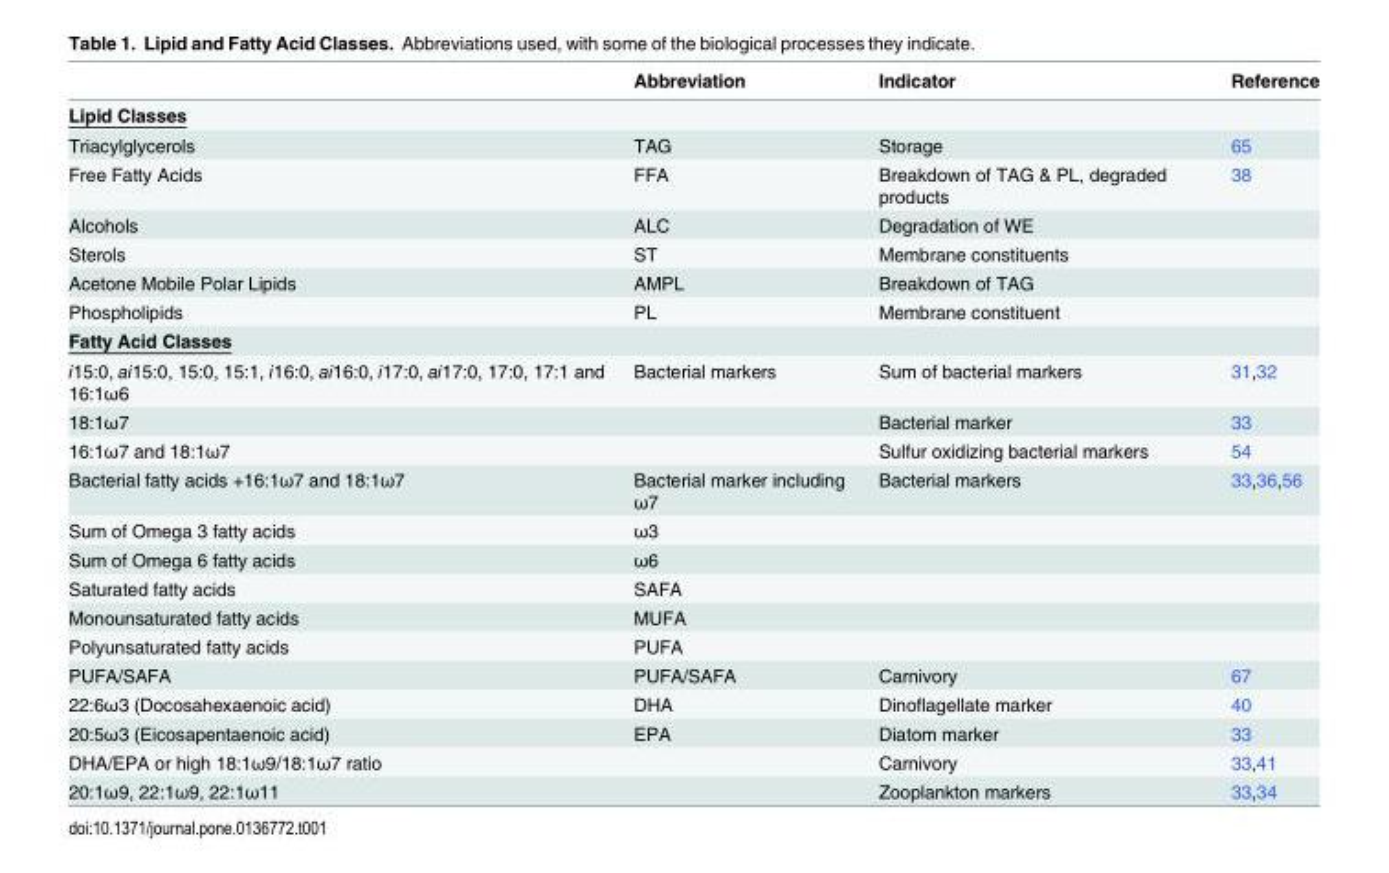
<table><thead><tr><td></td><td>Abbreviation</td><td>Indicator</td><td>Reference</td></tr></thead><tbody><tr><td colspan="4">Lipid Classes</td></tr><tr><td>Triacylglycerols</td><td>TAG</td><td>Storage</td><td>65</td></tr><tr><td>Free Fatty Acids</td><td>FFA</td><td>Breakdown of TAG &amp; PL, degraded products</td><td>38</td></tr><tr><td>Alcohols</td><td>ALC</td><td>Degradation of WE</td><td></td></tr><tr><td>Sterols</td><td>ST</td><td>Membrane constituents</td><td></td></tr><tr><td>Acetone Mobile Polar Lipids</td><td>AMPL</td><td>Breakdown of TAG</td><td></td></tr><tr><td>Phospholipids</td><td>PL</td><td>Membrane constituent</td><td></td></tr><tr><td colspan="4">Fatty Acid Classes</td></tr><tr><td>i15:0, ai15:0, 15:0, 15:1, i16:0, ai16:0, i17:0, ai17:0, 17:0, 17:1 and 16:1ω6</td><td>Bacterial markers</td><td>Sum of bacterial markers</td><td>31,32</td></tr><tr><td>18:1ω7</td><td></td><td>Bacterial marker</td><td>33</td></tr><tr><td>16:1ω7 and 18:1ω7</td><td></td><td>Sulfur oxidizing bacterial markers</td><td>54</td></tr><tr><td>Bacterial fatty acids +16:1ω7 and 18:1ω7</td><td>Bacterial marker including ω7</td><td>Bacterial markers</td><td>33,36,56</td></tr><tr><td>Sum of Omega 3 fatty acids</td><td>ω3</td><td></td><td></td></tr><tr><td>Sum of Omega 6 fatty acids</td><td>ω6</td><td></td><td></td></tr><tr><td>Saturated fatty acids</td><td>SAFA</td><td></td><td></td></tr><tr><td>Monounsaturated fatty acids</td><td>MUFA</td><td></td><td></td></tr><tr><td>Polyunsaturated fatty acids</td><td>PUFA</td><td></td><td></td></tr><tr><td>PUFA/SAFA</td><td>PUFA/SAFA</td><td>Carnivory</td><td>67</td></tr><tr><td>22:6ω3 (Docosahexaenoic acid)</td><td>DHA</td><td>Dinoflagellate marker</td><td>40</td></tr><tr><td>20:5ω3 (Eicosapentaenoic acid)</td><td>EPA</td><td>Diatom marker</td><td>33</td></tr><tr><td>DHA/EPA or high 18:1ω9/18:1ω7 ratio</td><td></td><td>Carnivory</td><td>33,41</td></tr><tr><td>20:1ω9, 22:1ω9, 22:1ω11</td><td></td><td>Zooplankton markers</td><td>33,34</td></tr></tbody></table>